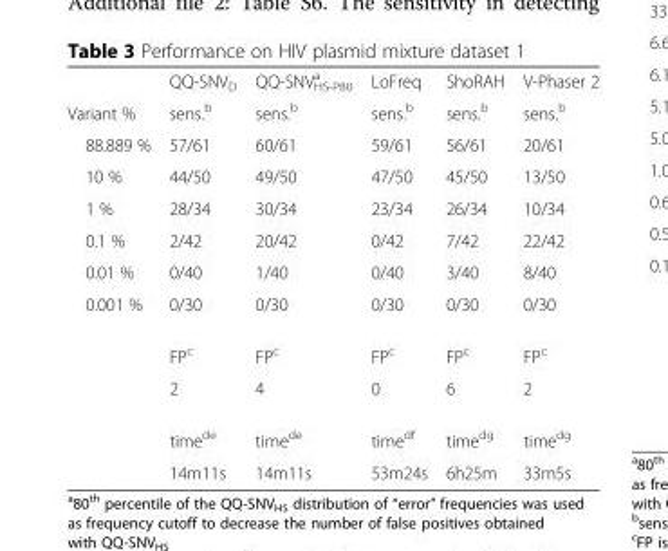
<table><thead><tr><td></td><td>QQ-SNV<sub>D</sub></td><td>QQ-SNV<sub>HS-P80</sub> <sup>a</sup></td><td>LoFreq</td><td>ShoRAH</td><td>V-Phaser 2</td></tr></thead><tbody><tr><td>Variant %</td><td>sens.<sup>b</sup></td><td>sens.<sup>b</sup></td><td>sens.<sup>b</sup></td><td>sens.<sup>b</sup></td><td>sens.<sup>b</sup></td></tr><tr><td>88.889 %</td><td>57/61</td><td>60/61</td><td>59/61</td><td>56/61</td><td>20/61</td></tr><tr><td>10 %</td><td>44/50</td><td>49/50</td><td>47/50</td><td>45/50</td><td>13/50</td></tr><tr><td>1 %</td><td>28/34</td><td>30/34</td><td>23/34</td><td>26/34</td><td>10/34</td></tr><tr><td>0.1 %</td><td>2/42</td><td>20/42</td><td>0/42</td><td>7/42</td><td>22/42</td></tr><tr><td>0.01 %</td><td>0/40</td><td>1/40</td><td>0/40</td><td>3/40</td><td>8/40</td></tr><tr><td rowspan="5">0.001 %</td><td>0/30</td><td>0/30</td><td>0/30</td><td>0/30</td><td>0/30</td></tr><tr><td>FP<sup>c</sup></td><td>FP<sup>c</sup></td><td>FP<sup>c</sup></td><td>FP<sup>c</sup></td><td>FP<sup>c</sup></td></tr><tr><td>2</td><td>4</td><td>0</td><td>6</td><td>2</td></tr><tr><td>time<sup>de</sup></td><td>time<sup>de</sup></td><td>time<sup>df</sup></td><td>time<sup>dg</sup></td><td>time<sup>dg</sup></td></tr><tr><td>14m11s</td><td>14m11s</td><td>53m24s</td><td>6h25m</td><td>33m5s</td></tr></tbody></table>